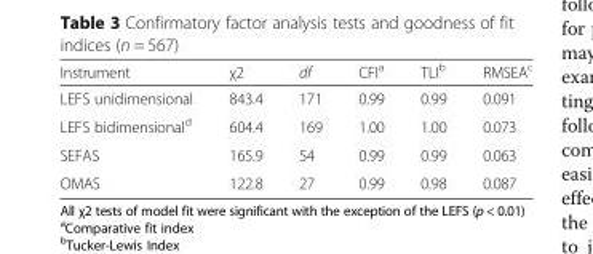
<table><thead><tr><td>Instrument</td><td>χ2</td><td>df</td><td>CFI<sup>a</sup></td><td>TLI<sup>b</sup></td><td>RMSEA<sup>c</sup></td></tr></thead><tbody><tr><td>LEFS unidimensional</td><td>843.4</td><td>171</td><td>0.99</td><td>0.99</td><td>0.091</td></tr><tr><td>LEFS bidimensional<sup>d</sup></td><td>604.4</td><td>169</td><td>1.00</td><td>1.00</td><td>0.073</td></tr><tr><td>SEFAS</td><td>165.9</td><td>54</td><td>0.99</td><td>0.99</td><td>0.063</td></tr><tr><td>OMAS</td><td>122.8</td><td>27</td><td>0.99</td><td>0.98</td><td>0.087</td></tr></tbody></table>